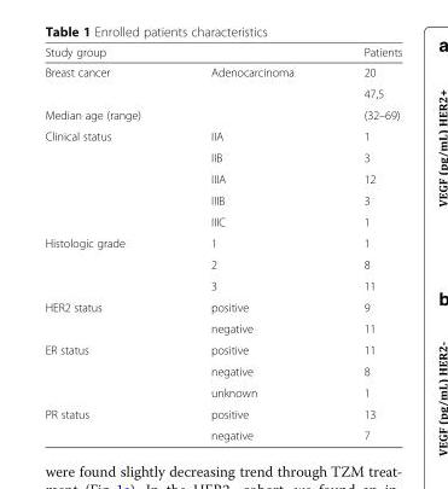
<table><thead><tr><td>Study group</td><td></td><td>Patients</td></tr></thead><tbody><tr><td rowspan="2">Breast cancer</td><td rowspan="2">Adenocarcinoma</td><td>20</td></tr><tr><td>47,5</td></tr><tr><td>Median age (range)</td><td></td><td>(32–69)</td></tr><tr><td rowspan="5">Clinical status</td><td>IIA</td><td>1</td></tr><tr><td>IIB</td><td>3</td></tr><tr><td>IIIA</td><td>12</td></tr><tr><td>IIIB</td><td>3</td></tr><tr><td>IIIC</td><td>1</td></tr><tr><td rowspan="3">Histologic grade</td><td>1</td><td>1</td></tr><tr><td>2</td><td>8</td></tr><tr><td>3</td><td>11</td></tr><tr><td rowspan="2">HER2 status</td><td>positive</td><td>9</td></tr><tr><td>negative</td><td>11</td></tr><tr><td rowspan="3">ER status</td><td>positive</td><td>11</td></tr><tr><td>negative</td><td>8</td></tr><tr><td>unknown</td><td>1</td></tr><tr><td rowspan="2">PR status</td><td>positive</td><td>13</td></tr><tr><td>negative</td><td>7</td></tr></tbody></table>